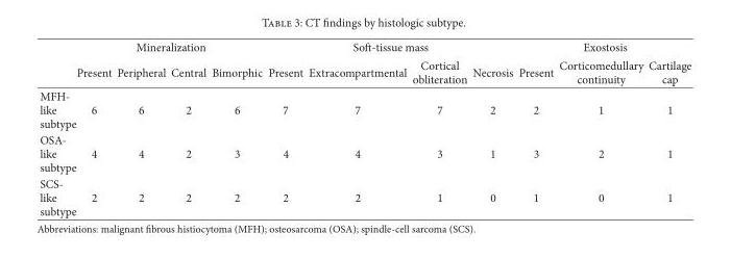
<table><thead><tr><td rowspan="2"></td><td colspan="4">Mineralization</td><td colspan="4">Soft-tissue mass</td><td colspan="3">Exostosis</td></tr><tr><td>Present</td><td>Peripheral</td><td>Central</td><td>Bimorphic</td><td>Present</td><td>Extracompartmental</td><td>Cortical obliteration</td><td>Necrosis</td><td>Present</td><td>Corticomedullary continuity</td><td>Cartilage cap</td></tr></thead><tbody><tr><td>MFH- like subtype</td><td>6</td><td>6</td><td>2</td><td>6</td><td>7</td><td>7</td><td>7</td><td>2</td><td>2</td><td>1</td><td>1</td></tr><tr><td>OSA- like subtype</td><td>4</td><td>4</td><td>2</td><td>3</td><td>4</td><td>4</td><td>3</td><td>1</td><td>3</td><td>2</td><td>1</td></tr><tr><td>SCS- like subtype</td><td>2</td><td>2</td><td>2</td><td>2</td><td>2</td><td>2</td><td>1</td><td>0</td><td>1</td><td>0</td><td>1</td></tr></tbody></table>